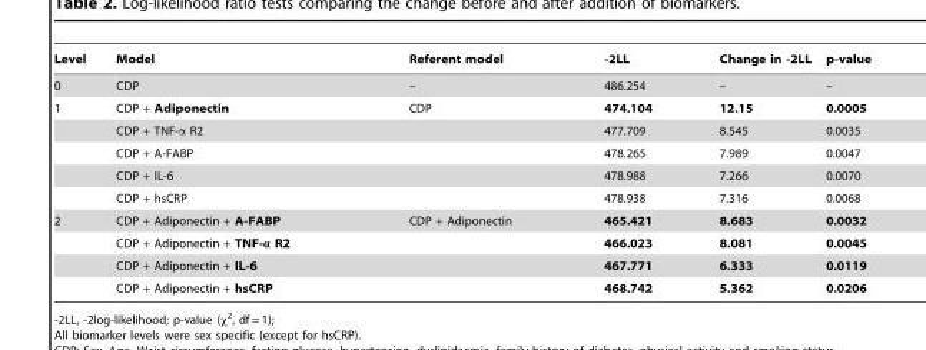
<table><thead><tr><td>Level</td><td>Model</td><td>Referent model</td><td>-2LL</td><td>Change in -2LL</td><td>p-value</td></tr></thead><tbody><tr><td>0</td><td>CDP</td><td>–</td><td>486.254</td><td>–</td><td>–</td></tr><tr><td rowspan="5">1</td><td>CDP + Adiponectin</td><td>CDP</td><td>474.104</td><td>12.15</td><td>0.0005</td></tr><tr><td>CDP + TNF-α R2</td><td></td><td>477.709</td><td>8.545</td><td>0.0035</td></tr><tr><td>CDP + A-FABP</td><td></td><td>478.265</td><td>7.989</td><td>0.0047</td></tr><tr><td>CDP + IL-6</td><td></td><td>478.988</td><td>7.266</td><td>0.0070</td></tr><tr><td>CDP + hsCRP</td><td></td><td>478.938</td><td>7.316</td><td>0.0068</td></tr><tr><td rowspan="4">2</td><td>CDP + Adiponectin + A-FABP</td><td>CDP + Adiponectin</td><td>465.421</td><td>8.683</td><td>0.0032</td></tr><tr><td>CDP + Adiponectin + TNF-α R2</td><td></td><td>466.023</td><td>8.081</td><td>0.0045</td></tr><tr><td>CDP + Adiponectin + IL-6</td><td></td><td>467.771</td><td>6.333</td><td>0.0119</td></tr><tr><td>CDP + Adiponectin + hsCRP</td><td></td><td>468.742</td><td>5.362</td><td>0.0206</td></tr></tbody></table>